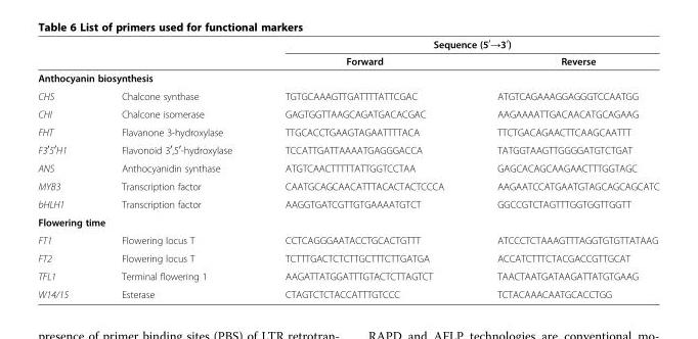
<table><thead><tr><td rowspan="2"></td><td rowspan="2"></td><td colspan="2">Sequence (5<sup>′</sup>→3<sup>′</sup>)</td></tr><tr><td>Forward</td><td>Reverse</td></tr></thead><tbody><tr><td colspan="4">Anthocyanin biosynthesis</td></tr><tr><td>CHS</td><td>Chalcone synthase</td><td>TGTGCAAAGTTGATTTTATTCGAC</td><td>ATGTCAGAAAGGAGGGTCCAATGG</td></tr><tr><td>CHI</td><td>Chalcone isomerase</td><td>GAGTGGTTAAGCAGATGACACGAC</td><td>AAGAAAATTGACAACATGCAGAAG</td></tr><tr><td>FHT</td><td>Flavanone 3-hydroxylase</td><td>TTGCACCTGAAGTAGAATTTTACA</td><td>TTCTGACAGAACTTCAAGCAATTT</td></tr><tr><td>F3<sup>′</sup>5<sup>′</sup>H1</td><td>Flavonoid 3<sup>′</sup>,5<sup>′</sup>-hydroxylase</td><td>TCCATTGATTAAAATGAGGGACCA</td><td>TATGGTAAGTTGGGGATGTCTGAT</td></tr><tr><td>ANS</td><td>Anthocyanidin synthase</td><td>ATGTCAACTTTTTATTGGTCCTAA</td><td>GAGCACAGCAAGAACTTTGGTAGC</td></tr><tr><td>MYB3</td><td>Transcription factor</td><td>CAATGCAGCAACATTTACACTACTCCCA</td><td>AAGAATCCATGAATGTAGCAGCAGCATC</td></tr><tr><td>bHLH1</td><td>Transcription factor</td><td>AAGGTGATCGTTGTGAAAATGTCT</td><td>GGCCGTCTAGTTTGGTGGTTGGTT</td></tr><tr><td colspan="4">Flowering time</td></tr><tr><td>FT1</td><td>Flowering locus T</td><td>CCTCAGGGAATACCTGCACTGTTT</td><td>ATCCCTCTAAAGTTTAGGTGTGTTATAAG</td></tr><tr><td>FT2</td><td>Flowering locus T</td><td>TCTTTGACTCTCTTGCTTTCTTGATGA</td><td>ACCATCTTTCTACGACCGTTGCAT</td></tr><tr><td>TFL1</td><td>Terminal flowering 1</td><td>AAGATTATGGATTTGTACTCTTAGTCT</td><td>TAACTAATGATAAGATTATGTGAAG</td></tr><tr><td>W14/15</td><td>Esterase</td><td>CTAGTCTCTACCATTTGTCCC</td><td>TCTACAAACAATGCACCTGG</td></tr></tbody></table>